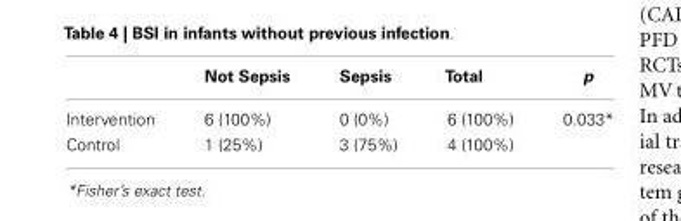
<table><thead><tr><td></td><td>Not Sepsis</td><td>Sepsis</td><td>Total</td><td>p</td></tr></thead><tbody><tr><td>Intervention</td><td>6 (100%)</td><td>0 (0%)</td><td>6 (100%)</td><td>0.033*</td></tr><tr><td>Control</td><td>1 (25%)</td><td>3 (75%)</td><td>4 (100%)</td><td></td></tr></tbody></table>